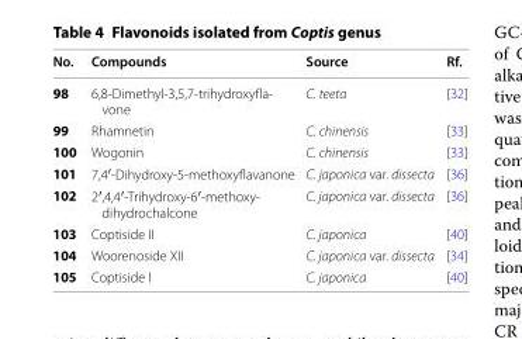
<table><thead><tr><td>No.</td><td>Compounds</td><td>Source</td><td>Rf.</td></tr></thead><tbody><tr><td>98</td><td>6,8‑Dimethyl‑3,5,7‑trihydroxyfla‑ vone</td><td>C. teeta</td><td>[32]</td></tr><tr><td>99</td><td>Rhamnetin</td><td>C. chinensis</td><td>[33]</td></tr><tr><td>100</td><td>Wogonin</td><td>C. chinensis</td><td>[33]</td></tr><tr><td>101</td><td>7,4′‑Dihydroxy‑5‑methoxyflavanone</td><td>C. japonica var. dissecta</td><td>[36]</td></tr><tr><td>102</td><td>2′,4,4′‑Trihydroxy‑6′‑methoxy‑ dihydrochalcone</td><td>C. japonica var. dissecta</td><td>[36]</td></tr><tr><td>103</td><td>Coptiside II</td><td>C. japonica</td><td>[40]</td></tr><tr><td>104</td><td>Woorenoside XII</td><td>C. japonica var. dissecta</td><td>[34]</td></tr><tr><td>105</td><td>Coptiside I</td><td>C. japonica</td><td>[40]</td></tr></tbody></table>